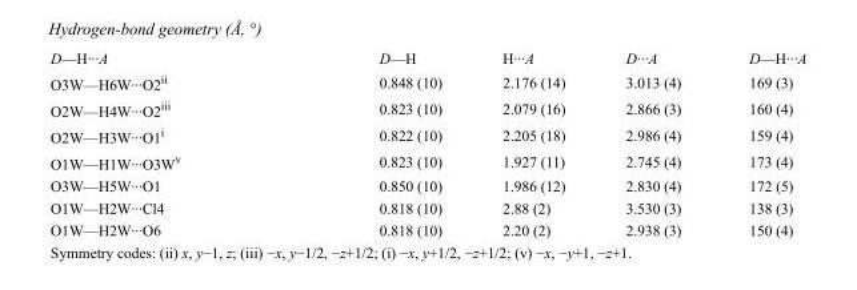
<table><tbody><tr><td>D—H···A</td><td>D—H</td><td>H···A</td><td>D···A</td><td>D—H···A</td></tr><tr><td>O3W—H6W···O2<sup>ii</sup></td><td>0.848 (10)</td><td>2.176 (14)</td><td>3.013 (4)</td><td>169 (3)</td></tr><tr><td>O2W—H4W···O2<sup>iii</sup></td><td>0.823 (10)</td><td>2.079 (16)</td><td>2.866 (3)</td><td>160 (4)</td></tr><tr><td>O2W—H3W···O1<sup>i</sup></td><td>0.822 (10)</td><td>2.205 (18)</td><td>2.986 (4)</td><td>159 (4)</td></tr><tr><td>O1W—H1W···O3W<sup>v</sup></td><td>0.823 (10)</td><td>1.927 (11)</td><td>2.745 (4)</td><td>173 (4)</td></tr><tr><td>O3W—H5W···O1</td><td>0.850 (10)</td><td>1.986 (12)</td><td>2.830 (4)</td><td>172 (5)</td></tr><tr><td>O1W—H2W···Cl4</td><td>0.818 (10)</td><td>2.88 (2)</td><td>3.530 (3)</td><td>138 (3)</td></tr><tr><td>O1W—H2W···O6</td><td>0.818 (10)</td><td>2.20 (2)</td><td>2.938 (3)</td><td>150 (4)</td></tr></tbody></table>